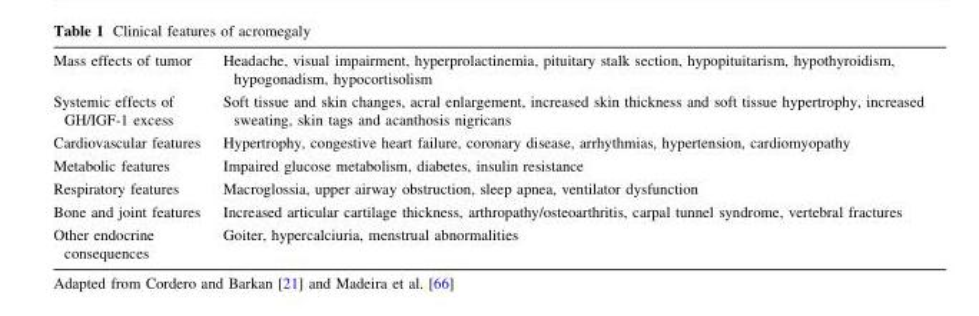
<table><tbody><tr><td>Mass effects of tumor</td><td>Headache, visual impairment, hyperprolactinemia, pituitary stalk section, hypopituitarism, hypothyroidism, hypogonadism, hypocortisolism</td></tr><tr><td>Systemic effects of GH/IGF-1 excess</td><td>Soft tissue and skin changes, acral enlargement, increased skin thickness and soft tissue hypertrophy, increased sweating, skin tags and acanthosis nigricans</td></tr><tr><td>Cardiovascular features</td><td>Hypertrophy, congestive heart failure, coronary disease, arrhythmias, hypertension, cardiomyopathy</td></tr><tr><td>Metabolic features</td><td>Impaired glucose metabolism, diabetes, insulin resistance</td></tr><tr><td>Respiratory features</td><td>Macroglossia, upper airway obstruction, sleep apnea, ventilator dysfunction</td></tr><tr><td>Bone and joint features</td><td>Increased articular cartilage thickness, arthropathy/osteoarthritis, carpal tunnel syndrome, vertebral fractures</td></tr><tr><td>Other endocrine consequences</td><td>Goiter, hypercalciuria, menstrual abnormalities</td></tr></tbody></table>